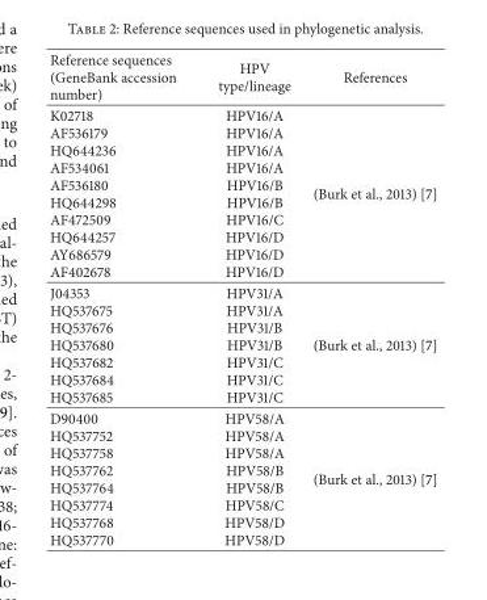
<table><thead><tr><td>Reference sequences (GeneBank accession number)</td><td>HPV type/lineage</td><td>References</td></tr></thead><tbody><tr><td>K02718 AF536179 HQ644236 AF534061 AF536180 HQ644298 AF472509 HQ644257 AY686579 AF402678</td><td>HPV16/A HPV16/A HPV16/A HPV16/A HPV16/B HPV16/B HPV16/C HPV16/D HPV16/D HPV16/D</td><td>(Burk et al., 2013) [7]</td></tr><tr><td>J04353 HQ537675 HQ537676 HQ537680 HQ537682 HQ537684 HQ537685</td><td>HPV31/A HPV31/A HPV31/B HPV31/B HPV31/C HPV31/C HPV31/C</td><td>(Burk et al., 2013) [7]</td></tr><tr><td>D90400 HQ537752 HQ537758 HQ537762 HQ537764 HQ537774 HQ537768 HQ537770</td><td>HPV58/A HPV58/A HPV58/A HPV58/B HPV58/B HPV58/C HPV58/D HPV58/D</td><td>(Burk et al., 2013) [7]</td></tr></tbody></table>